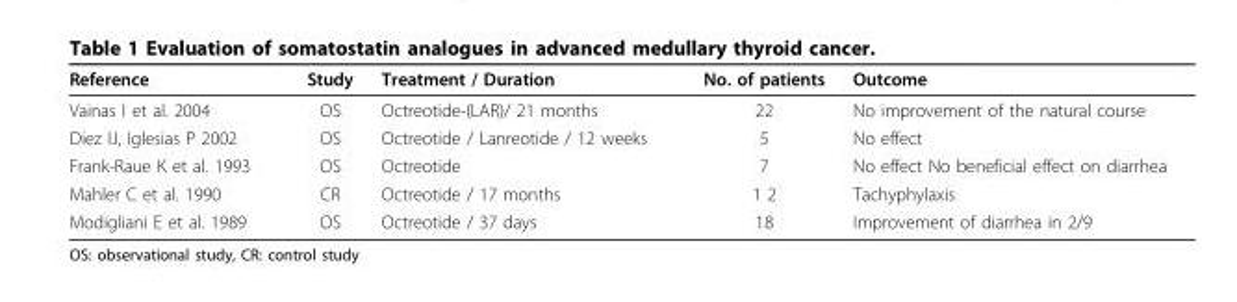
<table><thead><tr><td>Reference</td><td>Study</td><td>Treatment / Duration</td><td>No. of patients</td><td>Outcome</td></tr></thead><tbody><tr><td>Vainas I et al. 2004</td><td>OS</td><td>Octreotide-(LAR)/ 21 months</td><td>22</td><td>No improvement of the natural course</td></tr><tr><td>Diez IJ, Iglesias P 2002</td><td>OS</td><td>Octreotide / Lanreotide / 12 weeks</td><td>5</td><td>No effect</td></tr><tr><td>Frank-Raue K et al. 1993</td><td>OS</td><td>Octreotide</td><td>7</td><td>No effect No beneficial effect on diarrhea</td></tr><tr><td>Mahler C et al. 1990</td><td>CR</td><td>Octreotide / 17 months</td><td>1 2</td><td>Tachyphylaxis</td></tr><tr><td>Modigliani E et al. 1989</td><td>OS</td><td>Octreotide / 37 days</td><td>18</td><td>Improvement of diarrhea in 2/9</td></tr></tbody></table>